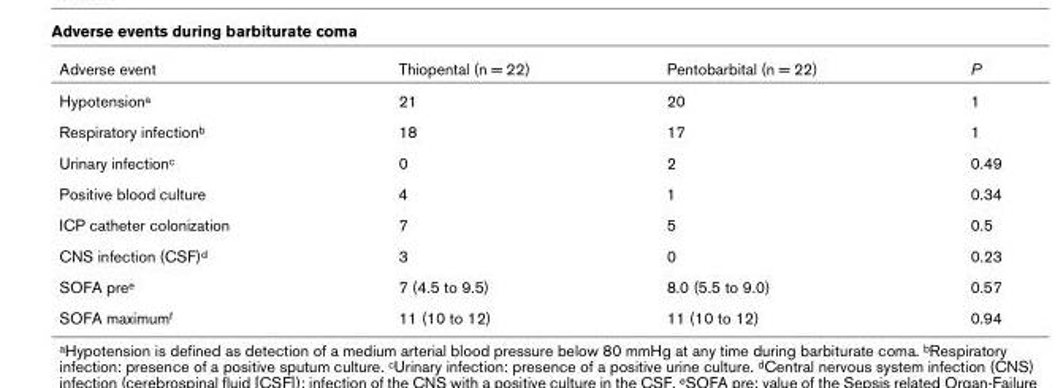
<table><thead><tr><td>Adverse event</td><td>Thiopental (n = 22)</td><td>Pentobarbital (n = 22)</td><td>P</td></tr></thead><tbody><tr><td>Hypotension<sup>a</sup></td><td>21</td><td>20</td><td>1</td></tr><tr><td>Respiratory infection<sup>b</sup></td><td>18</td><td>17</td><td>1</td></tr><tr><td>Urinary infection<sup>c</sup></td><td>0</td><td>2</td><td>0.49</td></tr><tr><td>Positive blood culture</td><td>4</td><td>1</td><td>0.34</td></tr><tr><td>ICP catheter colonization</td><td>7</td><td>5</td><td>0.5</td></tr><tr><td>CNS infection (CSF)<sup>d</sup></td><td>3</td><td>0</td><td>0.23</td></tr><tr><td>SOFA pre<sup>e</sup></td><td>7 (4.5 to 9.5)</td><td>8.0 (5.5 to 9.0)</td><td>0.57</td></tr><tr><td>SOFA maximum<sup>f</sup></td><td>11 (10 to 12)</td><td>11 (10 to 12)</td><td>0.94</td></tr></tbody></table>